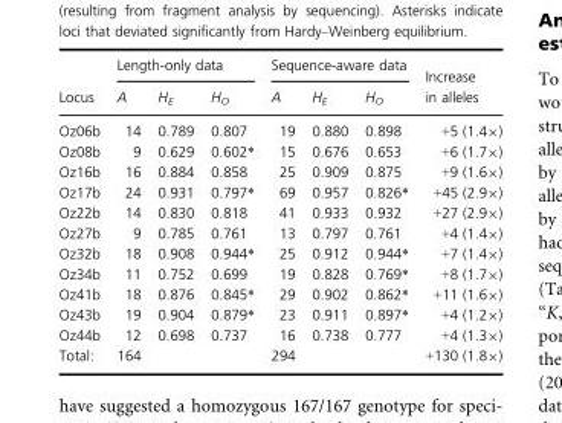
<table><thead><tr><td rowspan="2">Locus</td><td colspan="3">Length-only data</td><td colspan="3">Sequence-aware data</td><td rowspan="2">Increase in alleles</td></tr><tr><td>A</td><td>H<sub>E</sub></td><td>H<sub>O</sub></td><td>A</td><td>H<sub>E</sub></td><td>H<sub>O</sub></td></tr></thead><tbody><tr><td>Oz06b</td><td>14</td><td>0.789</td><td>0.807</td><td>19</td><td>0.880</td><td>0.898</td><td>+5 (1.4×)</td></tr><tr><td>Oz08b</td><td>9</td><td>0.629</td><td>0.602*</td><td>15</td><td>0.676</td><td>0.653</td><td>+6 (1.7×)</td></tr><tr><td>Oz16b</td><td>16</td><td>0.884</td><td>0.858</td><td>25</td><td>0.909</td><td>0.875</td><td>+9 (1.6×)</td></tr><tr><td>Oz17b</td><td>24</td><td>0.931</td><td>0.797*</td><td>69</td><td>0.957</td><td>0.826*</td><td>+45 (2.9×)</td></tr><tr><td>Oz22b</td><td>14</td><td>0.830</td><td>0.818</td><td>41</td><td>0.933</td><td>0.932</td><td>+27 (2.9×)</td></tr><tr><td>Oz27b</td><td>9</td><td>0.785</td><td>0.761</td><td>13</td><td>0.797</td><td>0.761</td><td>+4 (1.4×)</td></tr><tr><td>Oz32b</td><td>18</td><td>0.908</td><td>0.944*</td><td>25</td><td>0.912</td><td>0.944*</td><td>+7 (1.4×)</td></tr><tr><td>Oz34b</td><td>11</td><td>0.752</td><td>0.699</td><td>19</td><td>0.828</td><td>0.769*</td><td>+8 (1.7×)</td></tr><tr><td>Oz41b</td><td>18</td><td>0.876</td><td>0.845*</td><td>29</td><td>0.902</td><td>0.862*</td><td>+11 (1.6×)</td></tr><tr><td>Oz43b</td><td>19</td><td>0.904</td><td>0.879*</td><td>23</td><td>0.911</td><td>0.897*</td><td>+4 (1.2×)</td></tr><tr><td>Oz44b</td><td>12</td><td>0.698</td><td>0.737</td><td>16</td><td>0.738</td><td>0.777</td><td>+4 (1.3×)</td></tr><tr><td>Total:</td><td>164</td><td></td><td></td><td>294</td><td></td><td></td><td>+130 (1.8×)</td></tr></tbody></table>